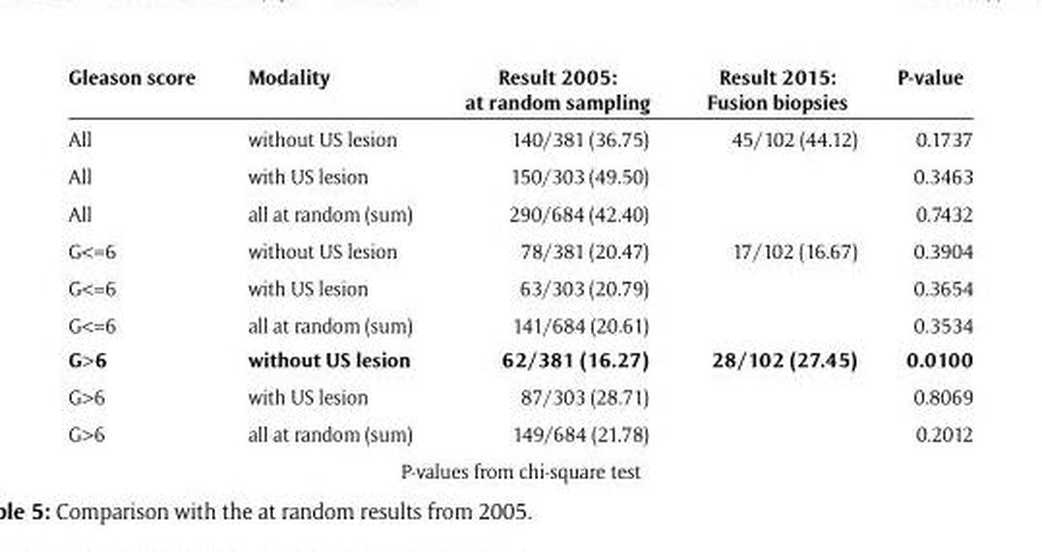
<table><thead><tr><td>Gleason score</td><td>Modality</td><td>Result 2005: at random sampling</td><td>Result 2015: Fusion biopsies</td><td>P-value</td></tr></thead><tbody><tr><td>All</td><td>without US lesion</td><td>140/381 (36.75)</td><td>45/102 (44.12)</td><td>0.1737</td></tr><tr><td>All</td><td>with US lesion</td><td>150/303 (49.50)</td><td></td><td>0.3463</td></tr><tr><td>All</td><td>all at random (sum)</td><td>290/684 (42.40)</td><td></td><td>0.7432</td></tr><tr><td>G&lt;=6</td><td>without US lesion</td><td>78/381 (20.47)</td><td>17/102 (16.67)</td><td>0.3904</td></tr><tr><td>G&lt;=6</td><td>with US lesion</td><td>63/303 (20.79)</td><td></td><td>0.3654</td></tr><tr><td>G&lt;=6</td><td>all at random (sum)</td><td>141/684 (20.61)</td><td></td><td>0.3534</td></tr><tr><td>G&gt;6</td><td>without US lesion</td><td>62/381 (16.27)</td><td>28/102 (27.45)</td><td>0.0100</td></tr><tr><td>G&gt;6</td><td>with US lesion</td><td>87/303 (28.71)</td><td></td><td>0.8069</td></tr><tr><td>G&gt;6</td><td>all at random (sum)</td><td>149/684 (21.78)</td><td></td><td>0.2012</td></tr><tr><td colspan="5">P-values from chi-square test</td></tr></tbody></table>